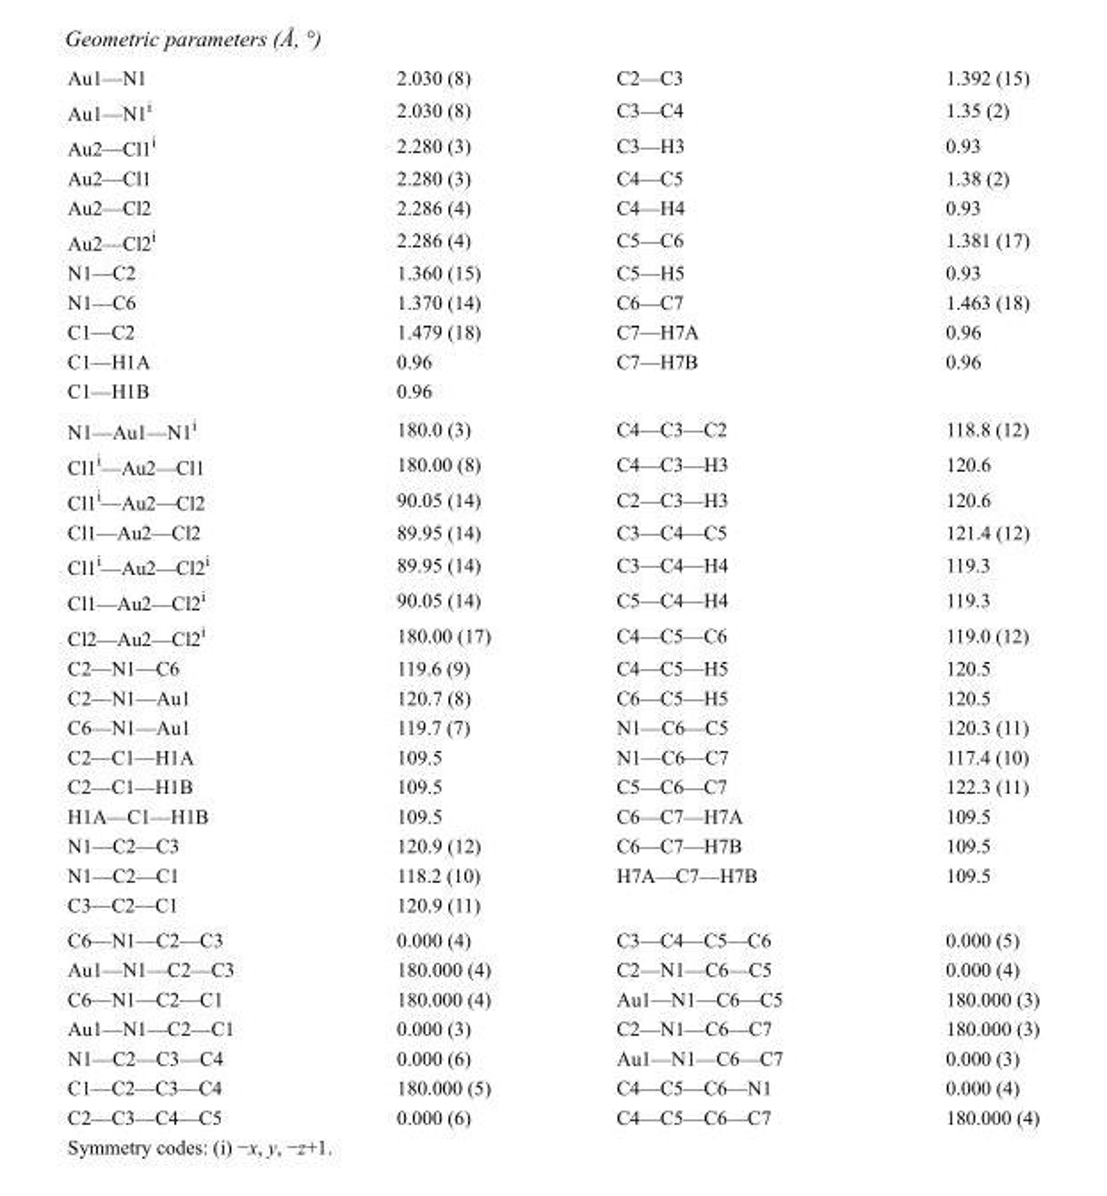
<table><tbody><tr><td>Au1—N1</td><td>2.030 (8)</td><td>C2—C3</td><td>1.392 (15)</td></tr><tr><td>Au1—N1<sup>i</sup></td><td>2.030 (8)</td><td>C3—C4</td><td>1.35 (2)</td></tr><tr><td>Au2—Cl1<sup>i</sup></td><td>2.280 (3)</td><td>C3—H3</td><td>0.93</td></tr><tr><td>Au2—Cl1</td><td>2.280 (3)</td><td>C4—C5</td><td>1.38 (2)</td></tr><tr><td>Au2—Cl2</td><td>2.286 (4)</td><td>C4—H4</td><td>0.93</td></tr><tr><td>Au2—Cl2<sup>i</sup></td><td>2.286 (4)</td><td>C5—C6</td><td>1.381 (17)</td></tr><tr><td>N1—C2</td><td>1.360 (15)</td><td>C5—H5</td><td>0.93</td></tr><tr><td>N1—C6</td><td>1.370 (14)</td><td>C6—C7</td><td>1.463 (18)</td></tr><tr><td>C1—C2</td><td>1.479 (18)</td><td>C7—H7A</td><td>0.96</td></tr><tr><td>C1—H1A</td><td>0.96</td><td>C7—H7B</td><td>0.96</td></tr><tr><td>C1—H1B</td><td>0.96</td><td></td><td></td></tr><tr><td>N1—Au1—N1<sup>i</sup></td><td>180.0 (3)</td><td>C4—C3—C2</td><td>118.8 (12)</td></tr><tr><td>Cl1<sup>i</sup>—Au2—Cl1</td><td>180.00 (8)</td><td>C4—C3—H3</td><td>120.6</td></tr><tr><td>Cl1<sup>i</sup>—Au2—Cl2</td><td>90.05 (14)</td><td>C2—C3—H3</td><td>120.6</td></tr><tr><td>Cl1—Au2—Cl2</td><td>89.95 (14)</td><td>C3—C4—C5</td><td>121.4 (12)</td></tr><tr><td>Cl1<sup>i</sup>—Au2—Cl2<sup>i</sup></td><td>89.95 (14)</td><td>C3—C4—H4</td><td>119.3</td></tr><tr><td>Cl1—Au2—Cl2<sup>i</sup></td><td>90.05 (14)</td><td>C5—C4—H4</td><td>119.3</td></tr><tr><td>Cl2—Au2—Cl2<sup>i</sup></td><td>180.00 (17)</td><td>C4—C5—C6</td><td>119.0 (12)</td></tr><tr><td>C2—N1—C6</td><td>119.6 (9)</td><td>C4—C5—H5</td><td>120.5</td></tr><tr><td>C2—N1—Au1</td><td>120.7 (8)</td><td>C6—C5—H5</td><td>120.5</td></tr><tr><td>C6—N1—Au1</td><td>119.7 (7)</td><td>N1—C6—C5</td><td>120.3 (11)</td></tr><tr><td>C2—C1—H1A</td><td>109.5</td><td>N1—C6—C7</td><td>117.4 (10)</td></tr><tr><td>C2—C1—H1B</td><td>109.5</td><td>C5—C6—C7</td><td>122.3 (11)</td></tr><tr><td>H1A—C1—H1B</td><td>109.5</td><td>C6—C7—H7A</td><td>109.5</td></tr><tr><td>N1—C2—C3</td><td>120.9 (12)</td><td>C6—C7—H7B</td><td>109.5</td></tr><tr><td>N1—C2—C1</td><td>118.2 (10)</td><td>H7A—C7—H7B</td><td>109.5</td></tr><tr><td>C3—C2—C1</td><td>120.9 (11)</td><td></td><td></td></tr><tr><td>C6—N1—C2—C3</td><td>0.000 (4)</td><td>C3—C4—C5—C6</td><td>0.000 (5)</td></tr><tr><td>Au1—N1—C2—C3</td><td>180.000 (4)</td><td>C2—N1—C6—C5</td><td>0.000 (4)</td></tr><tr><td>C6—N1—C2—C1</td><td>180.000 (4)</td><td>Au1—N1—C6—C5</td><td>180.000 (3)</td></tr><tr><td>Au1—N1—C2—C1</td><td>0.000 (3)</td><td>C2—N1—C6—C7</td><td>180.000 (3)</td></tr><tr><td>N1—C2—C3—C4</td><td>0.000 (6)</td><td>Au1—N1—C6—C7</td><td>0.000 (3)</td></tr><tr><td>C1—C2—C3—C4</td><td>180.000 (5)</td><td>C4—C5—C6—N1</td><td>0.000 (4)</td></tr><tr><td>C2—C3—C4—C5</td><td>0.000 (6)</td><td>C4—C5—C6—C7</td><td>180.000 (4)</td></tr></tbody></table>